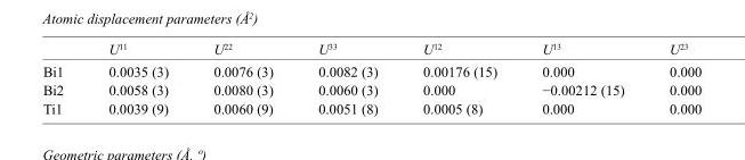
<table><thead><tr><td></td><td>U<sup>11</sup></td><td>U<sup>22</sup></td><td>U<sup>33</sup></td><td>U<sup>12</sup></td><td>U<sup>13</sup></td><td>U<sup>23</sup></td></tr></thead><tbody><tr><td>Bi1</td><td>0.0035 (3)</td><td>0.0076 (3)</td><td>0.0082 (3)</td><td>0.00176 (15)</td><td>0.000</td><td>0.000</td></tr><tr><td>Bi2</td><td>0.0058 (3)</td><td>0.0080 (3)</td><td>0.0060 (3)</td><td>0.000</td><td>−0.00212 (15)</td><td>0.000</td></tr><tr><td>Ti1</td><td>0.0039 (9)</td><td>0.0060 (9)</td><td>0.0051 (8)</td><td>0.0005 (8)</td><td>0.000</td><td>0.000</td></tr></tbody></table>